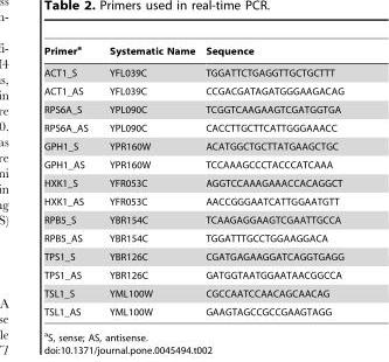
<table><thead><tr><td>Primer<sup>a</sup></td><td>Systematic Name</td><td>Sequence</td></tr></thead><tbody><tr><td>ACT1_S</td><td>YFL039C</td><td>TGGATTCTGAGGTTGCTGCTTT</td></tr><tr><td>ACT1_AS</td><td>YFL039C</td><td>CCGACGATAGATGGGAAGACAG</td></tr><tr><td>RPS6A_S</td><td>YPL090C</td><td>TCGGTCAAGAAGTCGATGGTGA</td></tr><tr><td>RPS6A_AS</td><td>YPL090C</td><td>CACCTTGCTTCATTGGGAAACC</td></tr><tr><td>GPH1_S</td><td>YPR160W</td><td>ACATGGCTGCTTATGAAGCTGC</td></tr><tr><td>GPH1_AS</td><td>YPR160W</td><td>TCCAAAGCCCTACCCATCAAA</td></tr><tr><td>HXK1_S</td><td>YFR053C</td><td>AGGTCCAAAGAAACCACAGGCT</td></tr><tr><td>HXK1_AS</td><td>YFR053C</td><td>AACCGGGAATCATTGGAATGTT</td></tr><tr><td>RPB5_S</td><td>YBR154C</td><td>TCAAGAGGAAGTCGAATTGCCA</td></tr><tr><td>RPB5_AS</td><td>YBR154C</td><td>TGGATTTGCCTGGAAGGACA</td></tr><tr><td>TPS1_S</td><td>YBR126C</td><td>CGATGAGAAGGATCAGGTGAGG</td></tr><tr><td>TPS1_AS</td><td>YBR126C</td><td>GATGGTAATGGAATAACGGCCA</td></tr><tr><td>TSL1_S</td><td>YML100W</td><td>CGCCAATCCAACAGCAACAG</td></tr><tr><td>TSL1_AS</td><td>YML100W</td><td>GAAGTAGCCGCCGAAGTAGG</td></tr></tbody></table>